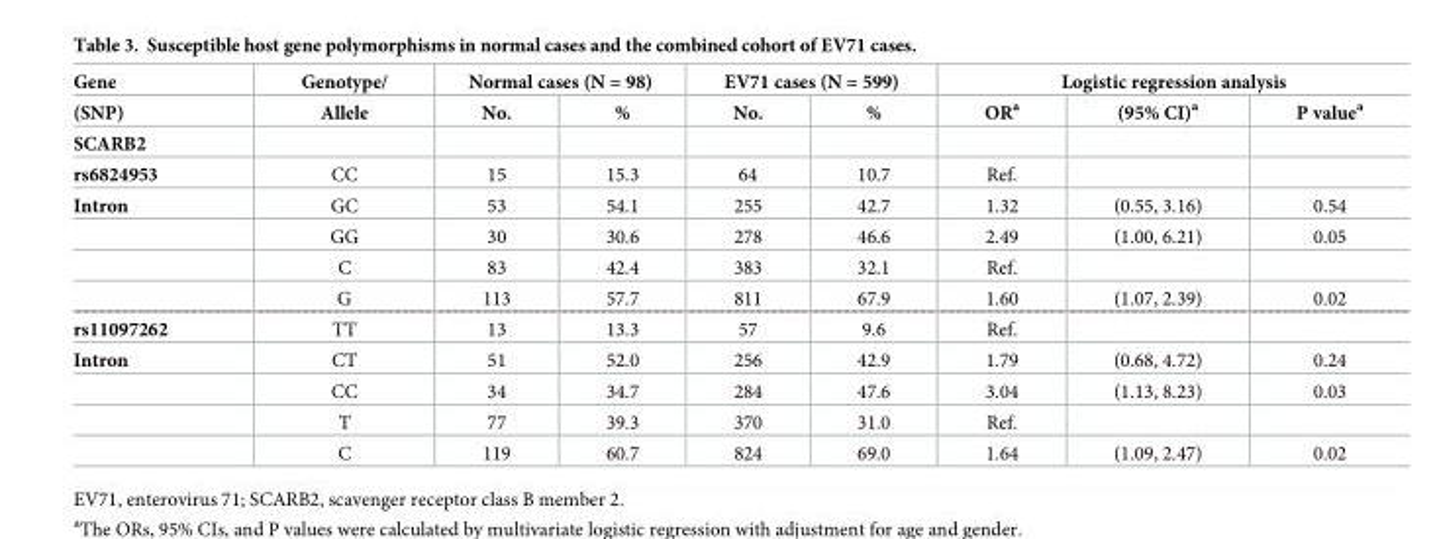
<table><thead><tr><td rowspan="2">Gene (SNP)</td><td rowspan="2">Genotype/ Allele</td><td colspan="2">Normal cases (N = 98)</td><td colspan="2">EV71 cases (N = 599)</td><td colspan="3">Logistic regression analysis</td></tr><tr><td>No.</td><td>%</td><td>No.</td><td>%</td><td>OR<sup>a</sup></td><td>(95% CI)<sup>a</sup></td><td>P value<sup>a</sup></td></tr></thead><tbody><tr><td colspan="9">SCARB2</td></tr><tr><td>rs6824953</td><td>CC</td><td>15</td><td>15.3</td><td>64</td><td>10.7</td><td>Ref.</td><td></td><td></td></tr><tr><td rowspan="4">Intron</td><td>GC</td><td>53</td><td>54.1</td><td>255</td><td>42.7</td><td>1.32</td><td>(0.55, 3.16)</td><td>0.54</td></tr><tr><td>GG</td><td>30</td><td>30.6</td><td>278</td><td>46.6</td><td>2.49</td><td>(1.00, 6.21)</td><td>0.05</td></tr><tr><td>C</td><td>83</td><td>42.4</td><td>383</td><td>32.1</td><td>Ref.</td><td></td><td></td></tr><tr><td>G</td><td>113</td><td>57.7</td><td>811</td><td>67.9</td><td>1.60</td><td>(1.07, 2.39)</td><td>0.02</td></tr><tr><td>rs11097262</td><td>TT</td><td>13</td><td>13.3</td><td>57</td><td>9.6</td><td>Ref.</td><td></td><td></td></tr><tr><td rowspan="4">Intron</td><td>CT</td><td>51</td><td>52.0</td><td>256</td><td>42.9</td><td>1.79</td><td>(0.68, 4.72)</td><td>0.24</td></tr><tr><td>CC</td><td>34</td><td>34.7</td><td>284</td><td>47.6</td><td>3.04</td><td>(1.13, 8.23)</td><td>0.03</td></tr><tr><td>T</td><td>77</td><td>39.3</td><td>370</td><td>31.0</td><td>Ref.</td><td></td><td></td></tr><tr><td>C</td><td>119</td><td>60.7</td><td>824</td><td>69.0</td><td>1.64</td><td>(1.09, 2.47)</td><td>0.02</td></tr></tbody></table>